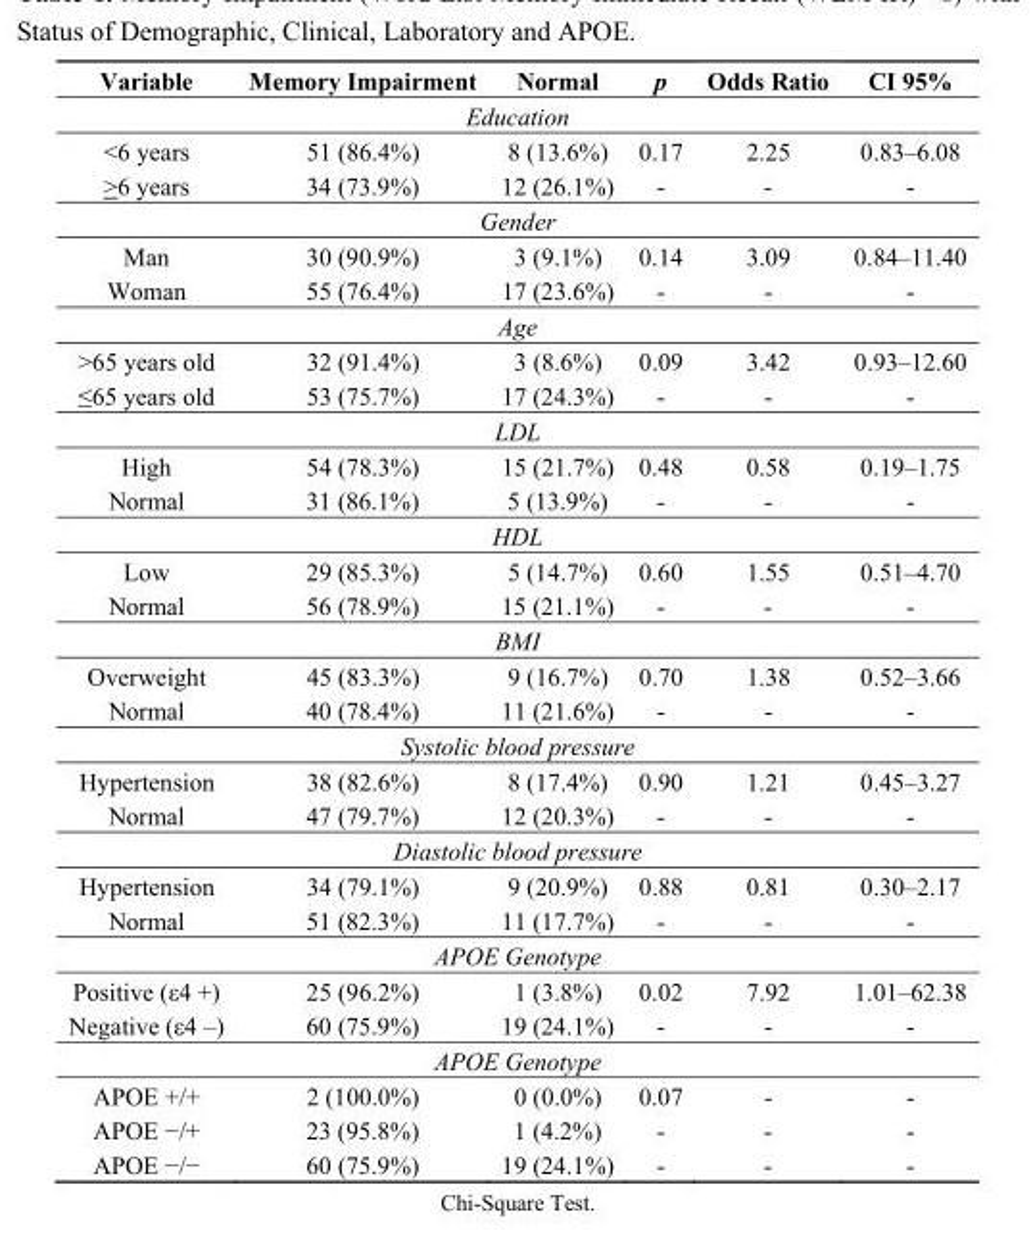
<table><thead><tr><td>Variable</td><td>Memory Impairment</td><td>Normal</td><td>p</td><td>Odds Ratio</td><td>CI 95%</td></tr></thead><tbody><tr><td colspan="6">Education</td></tr><tr><td>&lt;6 years</td><td>51 (86.4%)</td><td>8 (13.6%)</td><td>0.17</td><td>2.25</td><td>0.83–6.08</td></tr><tr><td>&gt;6 years</td><td>34 (73.9%)</td><td>12 (26.1%)</td><td>-</td><td>-</td><td>-</td></tr><tr><td colspan="6">Gender</td></tr><tr><td>Man</td><td>30 (90.9%)</td><td>3 (9.1%)</td><td>0.14</td><td>3.09</td><td>0.84–11.40</td></tr><tr><td>Woman</td><td>55 (76.4%)</td><td>17 (23.6%)</td><td>-</td><td>-</td><td>-</td></tr><tr><td colspan="6">Age</td></tr><tr><td>&gt;65 years old</td><td>32 (91.4%)</td><td>3 (8.6%)</td><td>0.09</td><td>3.42</td><td>0.93–12.60</td></tr><tr><td>≤65 years old</td><td>53 (75.7%)</td><td>17 (24.3%)</td><td>-</td><td>-</td><td>-</td></tr><tr><td colspan="6">LDL</td></tr><tr><td>High</td><td>54 (78.3%)</td><td>15 (21.7%)</td><td>0.48</td><td>0.58</td><td>0.19–1.75</td></tr><tr><td>Normal</td><td>31 (86.1%)</td><td>5 (13.9%)</td><td>-</td><td>-</td><td>-</td></tr><tr><td colspan="6">HDL</td></tr><tr><td>Low</td><td>29 (85.3%)</td><td>5 (14.7%)</td><td>0.60</td><td>1.55</td><td>0.51–4.70</td></tr><tr><td>Normal</td><td>56 (78.9%)</td><td>15 (21.1%)</td><td>-</td><td>-</td><td>-</td></tr><tr><td colspan="6">BMI</td></tr><tr><td>Overweight</td><td>45 (83.3%)</td><td>9 (16.7%)</td><td>0.70</td><td>1.38</td><td>0.52–3.66</td></tr><tr><td>Normal</td><td>40 (78.4%)</td><td>11 (21.6%)</td><td>-</td><td>-</td><td>-</td></tr><tr><td colspan="6">Systolic blood pressure</td></tr><tr><td>Hypertension</td><td>38 (82.6%)</td><td>8 (17.4%)</td><td>0.90</td><td>1.21</td><td>0.45–3.27</td></tr><tr><td>Normal</td><td>47 (79.7%)</td><td>12 (20.3%)</td><td>-</td><td>-</td><td>-</td></tr><tr><td colspan="6">Diastolic blood pressure</td></tr><tr><td>Hypertension</td><td>34 (79.1%)</td><td>9 (20.9%)</td><td>0.88</td><td>0.81</td><td>0.30–2.17</td></tr><tr><td>Normal</td><td>51 (82.3%)</td><td>11 (17.7%)</td><td>-</td><td>-</td><td>-</td></tr><tr><td colspan="6">APOE Genotype</td></tr><tr><td>Positive (ε4 +)</td><td>25 (96.2%)</td><td>1 (3.8%)</td><td>0.02</td><td>7.92</td><td>1.01–62.38</td></tr><tr><td>Negative (ε4 –)</td><td>60 (75.9%)</td><td>19 (24.1%)</td><td>-</td><td>-</td><td>-</td></tr><tr><td colspan="6">APOE Genotype</td></tr><tr><td>APOE +/+</td><td>2 (100.0%)</td><td>0 (0.0%)</td><td>0.07</td><td>-</td><td>-</td></tr><tr><td>APOE −/+</td><td>23 (95.8%)</td><td>1 (4.2%)</td><td>-</td><td>-</td><td>-</td></tr><tr><td>APOE −/−</td><td>60 (75.9%)</td><td>19 (24.1%)</td><td>-</td><td>-</td><td>-</td></tr></tbody></table>